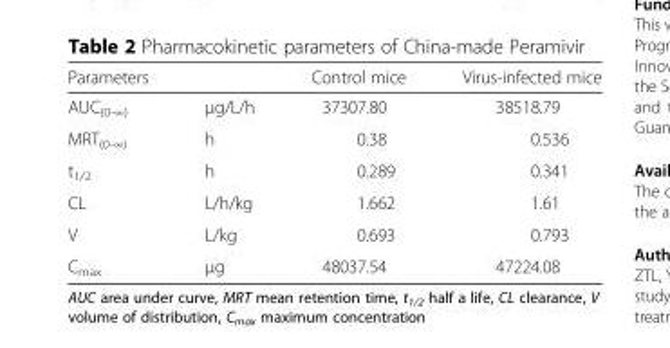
<table><thead><tr><td>Parameters</td><td></td><td>Control mice</td><td>Virus-infected mice</td></tr></thead><tbody><tr><td>AUC<sub>(0-∞)</sub></td><td>μg/L/h</td><td>37307.80</td><td>38518.79</td></tr><tr><td>MRT<sub>(0-∞)</sub></td><td>h</td><td>0.38</td><td>0.536</td></tr><tr><td>t<sub>1/2</sub></td><td>h</td><td>0.289</td><td>0.341</td></tr><tr><td>CL</td><td>L/h/kg</td><td>1.662</td><td>1.61</td></tr><tr><td>V</td><td>L/kg</td><td>0.693</td><td>0.793</td></tr><tr><td>C<sub>max</sub></td><td>μg</td><td>48037.54</td><td>47224.08</td></tr></tbody></table>